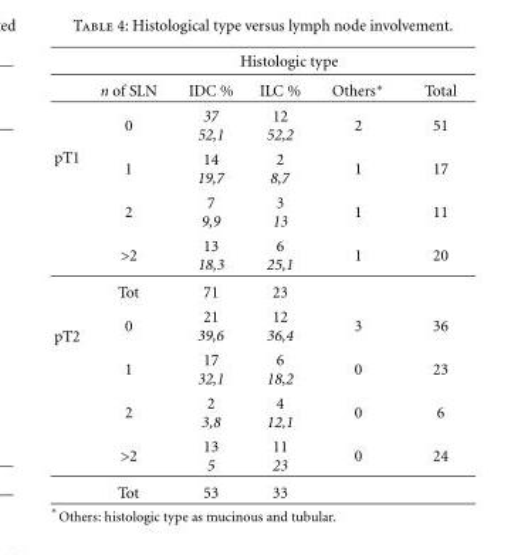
<table><thead><tr><td rowspan="2"></td><td rowspan="2">n of SLN</td><td colspan="3">Histologic type</td><td rowspan="2">Total</td></tr><tr><td>IDC %</td><td>ILC %</td><td>Others∗</td></tr></thead><tbody><tr><td rowspan="4">pT1</td><td>0</td><td>37 52,1</td><td>12 52,2</td><td>2</td><td>51</td></tr><tr><td>1</td><td>14 19,7</td><td>2 8,7</td><td>1</td><td>17</td></tr><tr><td>2</td><td>7 9,9</td><td>3 13</td><td>1</td><td>11</td></tr><tr><td>&gt;2</td><td>13 18,3</td><td>6 25,1</td><td>1</td><td>20</td></tr><tr><td rowspan="6">pT2</td><td>Tot</td><td>71</td><td>23</td><td></td><td></td></tr><tr><td>0</td><td>21 39,6</td><td>12 36,4</td><td>3</td><td>36</td></tr><tr><td>1</td><td>17 32,1</td><td>6 18,2</td><td>0</td><td>23</td></tr><tr><td>2</td><td>2 3,8</td><td>4 12,1</td><td>0</td><td>6</td></tr><tr><td>&gt;2</td><td>13 5</td><td>11 23</td><td>0</td><td>24</td></tr><tr><td>Tot</td><td>53</td><td>33</td><td></td><td></td></tr></tbody></table>